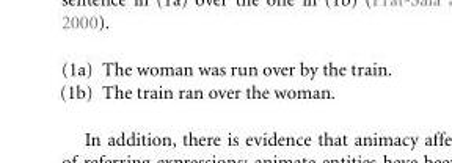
<table><tbody><tr><td>(1a)</td><td>The woman was run over by the train.</td></tr><tr><td>(1b)</td><td>The train ran over the woman.</td></tr></tbody></table>